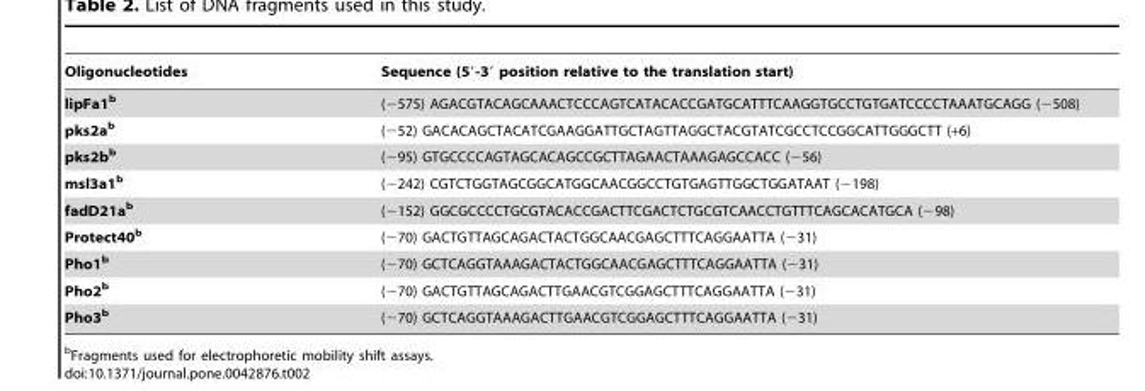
<table><thead><tr><td>Oligonucleotides</td><td>Sequence (5′-3′ position relative to the translation start)</td></tr></thead><tbody><tr><td>lipFa1b</td><td>(−575) AGACGTACAGCAAACTCCCAGTCATACACCGATGCATTTCAAGGTGCCTGTGATCCCCTAAATGCAGG (−508)</td></tr><tr><td>pks2ab</td><td>(−52) GACACAGCTACATCGAAGGATTGCTAGTTAGGCTACGTATCGCCTCCGGCATTGGGCTT (+6)</td></tr><tr><td>pks2bb</td><td>(−95) GTGCCCCAGTAGCACAGCCGCTTAGAACTAAAGAGCCACC (−56)</td></tr><tr><td>msl3a1b</td><td>(−242) CGTCTGGTAGCGGCATGGCAACGGCCTGTGAGTTGGCTGGATAAT (−198)</td></tr><tr><td>fadD21ab</td><td>(−152) GGCGCCCCTGCGTACACCGACTTCGACTCTGCGTCAACCTGTTTCAGCACATGCA (−98)</td></tr><tr><td>Protect40b</td><td>(−70) GACTGTTAGCAGACTACTGGCAACGAGCTTTCAGGAATTA (−31)</td></tr><tr><td>Pho1b</td><td>(−70) GCTCAGGTAAAGACTACTGGCAACGAGCTTTCAGGAATTA (−31)</td></tr><tr><td>Pho2b</td><td>(−70) GACTGTTAGCAGACTTGAACGTCGGAGCTTTCAGGAATTA (−31)</td></tr><tr><td>Pho3b</td><td>(−70) GCTCAGGTAAAGACTTGAACGTCGGAGCTTTCAGGAATTA (−31)</td></tr></tbody></table>